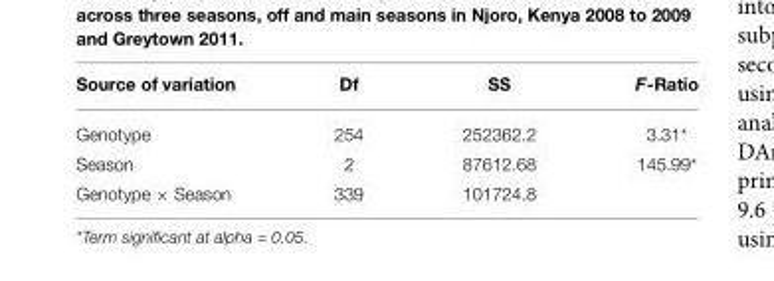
<table><thead><tr><td>Source of variation</td><td>Df</td><td>SS</td><td>F-Ratio</td></tr></thead><tbody><tr><td>Genotype</td><td>254</td><td>252362.2</td><td>3.31*</td></tr><tr><td>Season</td><td>2</td><td>87612.68</td><td>145.99*</td></tr><tr><td>Genotype × Season</td><td>339</td><td>101724.8</td><td></td></tr></tbody></table>